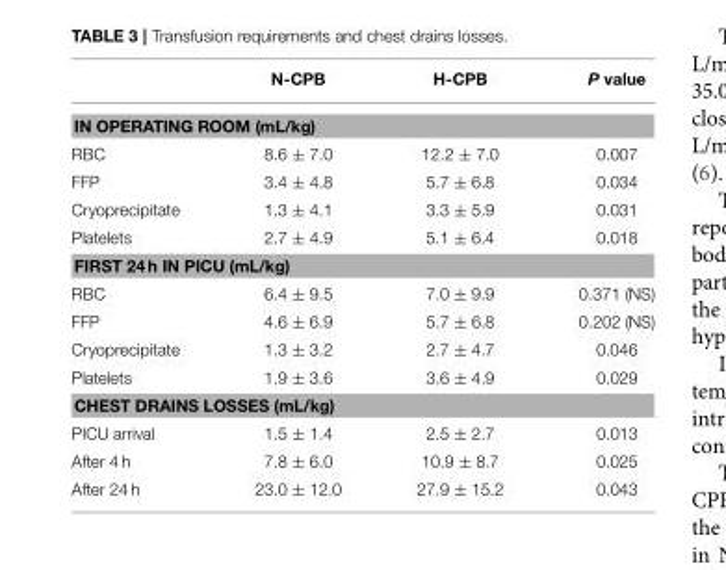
<table><thead><tr><td></td><td>N-CPB</td><td>H-CPB</td><td>P value</td></tr></thead><tbody><tr><td colspan="4">IN OPERATING ROOM (mL/kg)</td></tr><tr><td>RBC</td><td>8.6 ± 7.0</td><td>12.2 ± 7.0</td><td>0.007</td></tr><tr><td>FFP</td><td>3.4 ± 4.8</td><td>5.7 ± 6.8</td><td>0.034</td></tr><tr><td>Cryoprecipitate</td><td>1.3 ± 4.1</td><td>3.3 ± 5.9</td><td>0.031</td></tr><tr><td>Platelets</td><td>2.7 ± 4.9</td><td>5.1 ± 6.4</td><td>0.018</td></tr><tr><td colspan="4">FIRST 24 h IN PICU (mL/kg)</td></tr><tr><td>RBC</td><td>6.4 ± 9.5</td><td>7.0 ± 9.9</td><td>0.371 (NS)</td></tr><tr><td>FFP</td><td>4.6 ± 6.9</td><td>5.7 ± 6.8</td><td>0.202 (NS)</td></tr><tr><td>Cryoprecipitate</td><td>1.3 ± 3.2</td><td>2.7 ± 4.7</td><td>0.046</td></tr><tr><td>Platelets</td><td>1.9 ± 3.6</td><td>3.6 ± 4.9</td><td>0.029</td></tr><tr><td colspan="4">CHEST DRAINS LOSSES (mL/kg)</td></tr><tr><td>PICU arrival</td><td>1.5 ± 1.4</td><td>2.5 ± 2.7</td><td>0.013</td></tr><tr><td>After 4 h</td><td>7.8 ± 6.0</td><td>10.9 ± 8.7</td><td>0.025</td></tr><tr><td>After 24 h</td><td>23.0 ± 12.0</td><td>27.9 ± 15.2</td><td>0.043</td></tr></tbody></table>